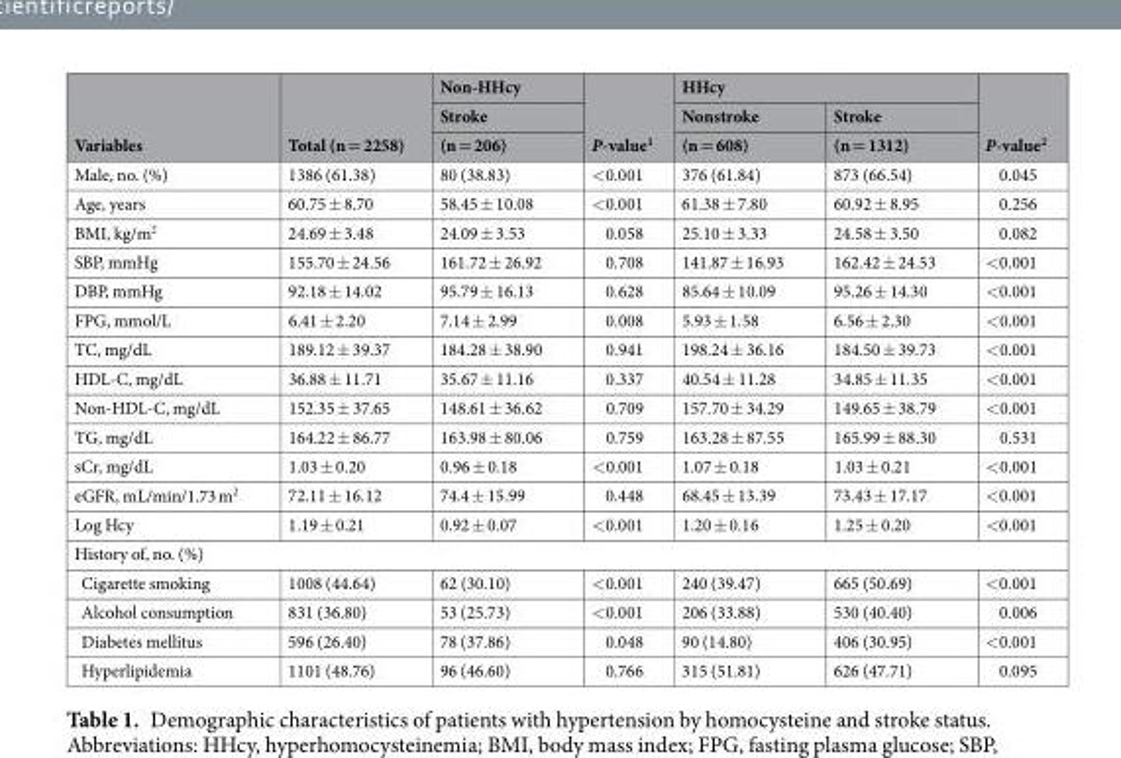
<table><thead><tr><td rowspan="3">Variables</td><td rowspan="3">Total (n = 2258)</td><td rowspan="3">Non-HHcy Stroke (n = 206)</td><td rowspan="3">P-value<sup>1</sup></td><td colspan="2">HHcy</td><td rowspan="3">P-value<sup>2</sup></td></tr><tr><td rowspan="2">Nonstroke (n = 608)</td><td rowspan="2">Stroke (n = 1312)</td></tr><tr></tr></thead><tbody><tr><td>Male, no. (%)</td><td>1386 (61.38)</td><td>80 (38.83)</td><td>&lt;0.001</td><td>376 (61.84)</td><td>873 (66.54)</td><td>0.045</td></tr><tr><td>Age, years</td><td>60.75 ± 8.70</td><td>58.45 ± 10.08</td><td>&lt;0.001</td><td>61.38 ± 7.80</td><td>60.92 ± 8.95</td><td>0.256</td></tr><tr><td>BMI, kg/m<sup>2</sup></td><td>24.69 ± 3.48</td><td>24.09 ± 3.53</td><td>0.058</td><td>25.10 ± 3.33</td><td>24.58 ± 3.50</td><td>0.082</td></tr><tr><td>SBP, mmHg</td><td>155.70 ± 24.56</td><td>161.72 ± 26.92</td><td>0.708</td><td>141.87 ± 16.93</td><td>162.42 ± 24.53</td><td>&lt;0.001</td></tr><tr><td>DBP, mmHg</td><td>92.18 ± 14.02</td><td>95.79 ± 16.13</td><td>0.628</td><td>85.64 ± 10.09</td><td>95.26 ± 14.30</td><td>&lt;0.001</td></tr><tr><td>FPG, mmol/L</td><td>6.41 ± 2.20</td><td>7.14 ± 2.99</td><td>0.008</td><td>5.93 ± 1.58</td><td>6.56 ± 2.30</td><td>&lt;0.001</td></tr><tr><td>TC, mg/dL</td><td>189.12 ± 39.37</td><td>184.28 ± 38.90</td><td>0.941</td><td>198.24 ± 36.16</td><td>184.50 ± 39.73</td><td>&lt;0.001</td></tr><tr><td>HDL-C, mg/dL</td><td>36.88 ± 11.71</td><td>35.67 ± 11.16</td><td>0.337</td><td>40.54 ± 11.28</td><td>34.85 ± 11.35</td><td>&lt;0.001</td></tr><tr><td>Non-HDL-C, mg/dL</td><td>152.35 ± 37.65</td><td>148.61 ± 36.62</td><td>0.709</td><td>157.70 ± 34.29</td><td>149.65 ± 38.79</td><td>&lt;0.001</td></tr><tr><td>TG, mg/dL</td><td>164.22 ± 86.77</td><td>163.98 ± 80.06</td><td>0.759</td><td>163.28 ± 87.55</td><td>165.99 ± 88.30</td><td>0.531</td></tr><tr><td>sCr, mg/dL</td><td>1.03 ± 0.20</td><td>0.96 ± 0.18</td><td>&lt;0.001</td><td>1.07 ± 0.18</td><td>1.03 ± 0.21</td><td>&lt;0.001</td></tr><tr><td>eGFR, mL/min/1.73 m<sup>2</sup></td><td>72.11 ± 16.12</td><td>74.4 ± 15.99</td><td>0.448</td><td>68.45 ± 13.39</td><td>73.43 ± 17.17</td><td>&lt;0.001</td></tr><tr><td>Log Hcy</td><td>1.19 ± 0.21</td><td>0.92 ± 0.07</td><td>&lt;0.001</td><td>1.20 ± 0.16</td><td>1.25 ± 0.20</td><td>&lt;0.001</td></tr><tr><td colspan="7">History of, no. (%)</td></tr><tr><td>Cigarette smoking</td><td>1008 (44.64)</td><td>62 (30.10)</td><td>&lt;0.001</td><td>240 (39.47)</td><td>665 (50.69)</td><td>&lt;0.001</td></tr><tr><td>Alcohol consumption</td><td>831 (36.80)</td><td>53 (25.73)</td><td>&lt;0.001</td><td>206 (33.88)</td><td>530 (40.40)</td><td>0.006</td></tr><tr><td>Diabetes mellitus</td><td>596 (26.40)</td><td>78 (37.86)</td><td>0.048</td><td>90 (14.80)</td><td>406 (30.95)</td><td>&lt;0.001</td></tr><tr><td>Hyperlipidemia</td><td>1101 (48.76)</td><td>96 (46.60)</td><td>0.766</td><td>315 (51.81)</td><td>626 (47.71)</td><td>0.095</td></tr></tbody></table>